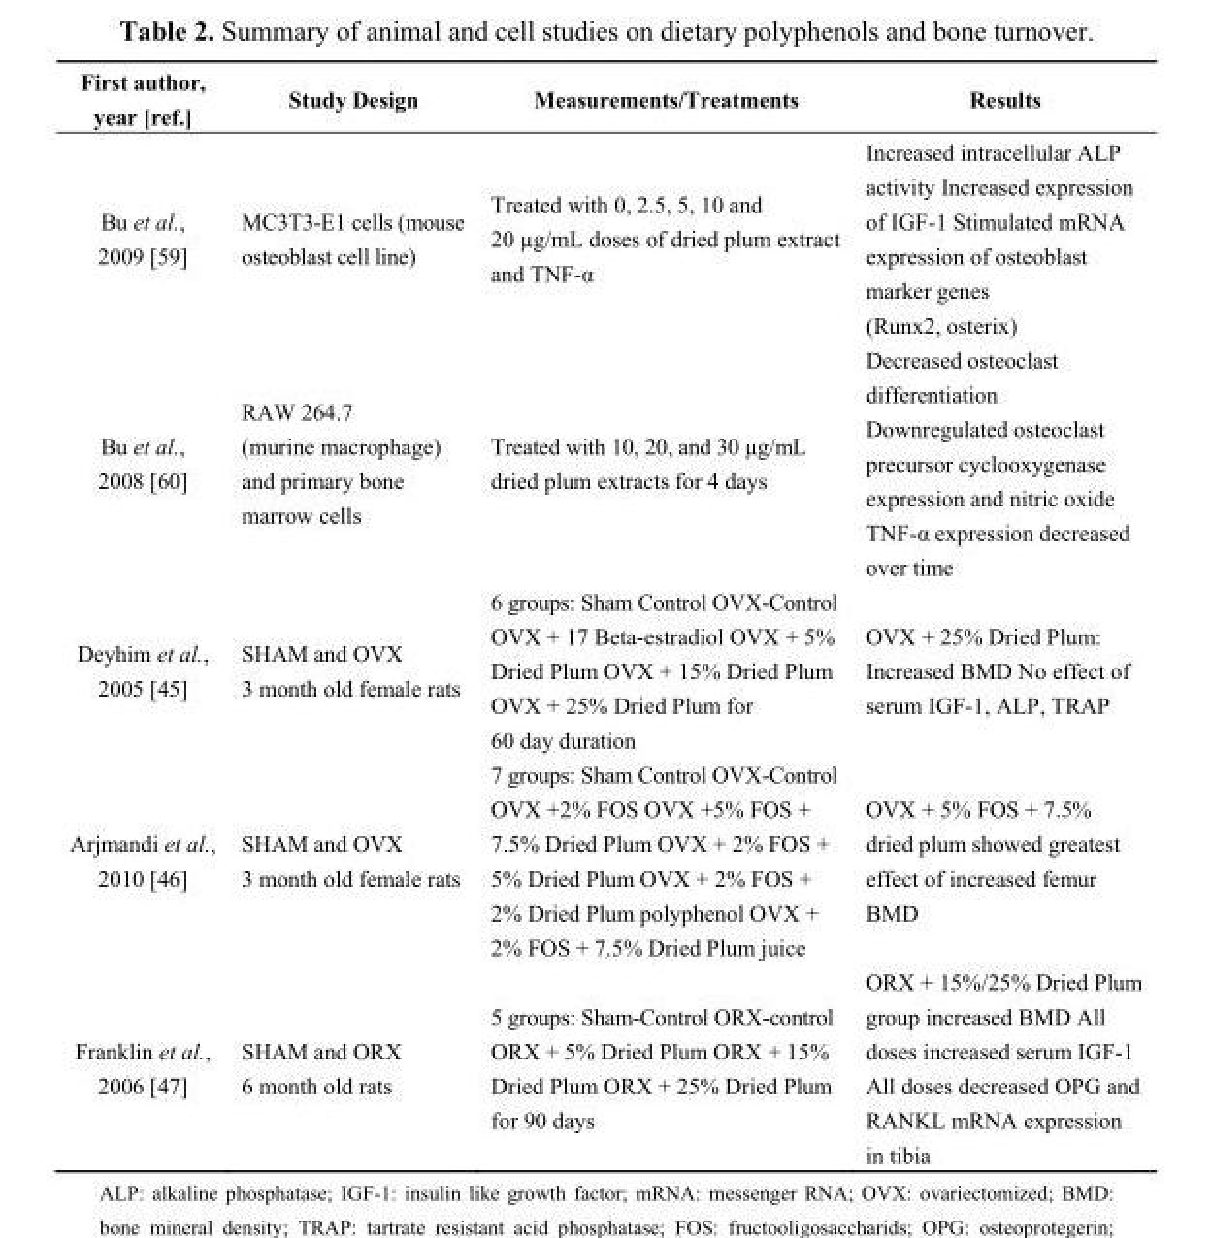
<table><thead><tr><td>First author, year [ref.]</td><td>Study Design</td><td>Measurements/Treatments</td><td>Results</td></tr></thead><tbody><tr><td>Bu et al., 2009 [59]</td><td>MC3T3-E1 cells (mouse osteoblast cell line)</td><td>Treated with 0, 2.5, 5, 10 and 20 µg/mL doses of dried plum extract and TNF-α</td><td>Increased intracellular ALP activity Increased expression of IGF-1 Stimulated mRNA expression of osteoblast marker genes (Runx2, osterix)</td></tr><tr><td>Bu et al., 2008 [60]</td><td>RAW 264.7 (murine macrophage) and primary bone marrow cells</td><td>Treated with 10, 20, and 30 µg/mL dried plum extracts for 4 days</td><td>Decreased osteoclast differentiation Downregulated osteoclast precursor cyclooxygenase expression and nitric oxide TNF-α expression decreased over time</td></tr><tr><td>Deyhim et al., 2005 [45]</td><td>SHAM and OVX 3 month old female rats</td><td>6 groups: Sham Control OVX-Control OVX + 17 Beta-estradiol OVX + 5% Dried Plum OVX + 15% Dried Plum OVX + 25% Dried Plum for 60 day duration</td><td>OVX + 25% Dried Plum: Increased BMD No effect of serum IGF-1, ALP, TRAP</td></tr><tr><td>Arjmandi et al., 2010 [46]</td><td>SHAM and OVX 3 month old female rats</td><td>7 groups: Sham Control OVX-Control OVX +2% FOS OVX +5% FOS + 7.5% Dried Plum OVX + 2% FOS + 5% Dried Plum OVX + 2% FOS + 2% Dried Plum polyphenol OVX + 2% FOS + 7.5% Dried Plum juice</td><td>OVX + 5% FOS + 7.5% dried plum showed greatest effect of increased femur BMD</td></tr><tr><td>Franklin et al., 2006 [47]</td><td>SHAM and ORX 6 month old rats</td><td>5 groups: Sham-Control ORX-control ORX + 5% Dried Plum ORX + 15% Dried Plum ORX + 25% Dried Plum for 90 days</td><td>ORX + 15%/25% Dried Plum group increased BMD All doses increased serum IGF-1 All doses decreased OPG and RANKL mRNA expression in tibia</td></tr></tbody></table>